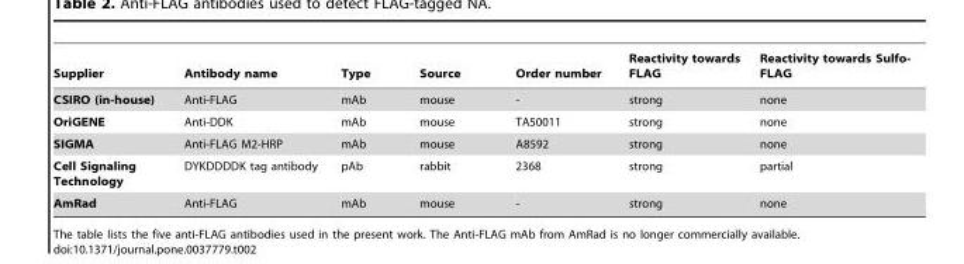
<table><thead><tr><td>Supplier</td><td>Antibody name</td><td>Type</td><td>Source</td><td>Order number</td><td>Reactivity towards FLAG</td><td>Reactivity towards Sulfo- FLAG</td></tr></thead><tbody><tr><td>CSIRO (in-house)</td><td>Anti-FLAG</td><td>mAb</td><td>mouse</td><td>-</td><td>strong</td><td>none</td></tr><tr><td>OriGENE</td><td>Anti-DDK</td><td>mAb</td><td>mouse</td><td>TA50011</td><td>strong</td><td>none</td></tr><tr><td>SIGMA</td><td>Anti-FLAG M2-HRP</td><td>mAb</td><td>mouse</td><td>A8592</td><td>strong</td><td>none</td></tr><tr><td>Cell Signaling Technology</td><td>DYKDDDDK tag antibody</td><td>pAb</td><td>rabbit</td><td>2368</td><td>strong</td><td>partial</td></tr><tr><td>AmRad</td><td>Anti-FLAG</td><td>mAb</td><td>mouse</td><td>-</td><td>strong</td><td>none</td></tr></tbody></table>